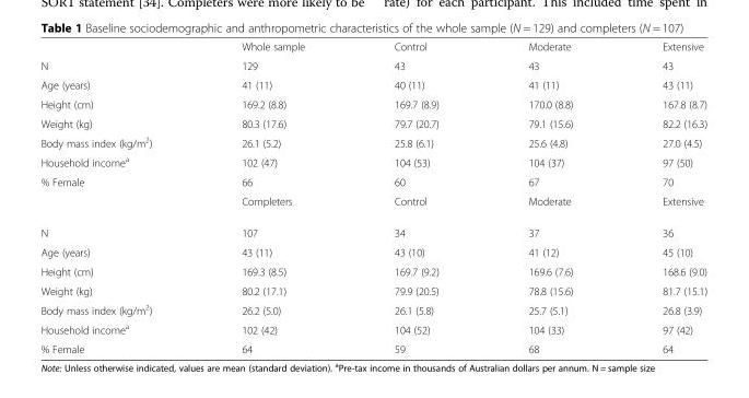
<table><thead><tr><td></td><td>Whole sample</td><td>Control</td><td>Moderate</td><td>Extensive</td></tr></thead><tbody><tr><td>N</td><td>129</td><td>43</td><td>43</td><td>43</td></tr><tr><td>Age (years)</td><td>41 (11)</td><td>40 (11)</td><td>41 (11)</td><td>43 (11)</td></tr><tr><td>Height (cm)</td><td>169.2 (8.8)</td><td>169.7 (8.9)</td><td>170.0 (8.8)</td><td>167.8 (8.7)</td></tr><tr><td>Weight (kg)</td><td>80.3 (17.6)</td><td>79.7 (20.7)</td><td>79.1 (15.6)</td><td>82.2 (16.3)</td></tr><tr><td>Body mass index (kg/m<sup>2</sup>)</td><td>26.1 (5.2)</td><td>25.8 (6.1)</td><td>25.6 (4.8)</td><td>27.0 (4.5)</td></tr><tr><td>Household income<sup>a</sup></td><td>102 (47)</td><td>104 (53)</td><td>104 (37)</td><td>97 (50)</td></tr><tr><td rowspan="2">% Female</td><td>66</td><td>60</td><td>67</td><td>70</td></tr><tr><td>Completers</td><td>Control</td><td>Moderate</td><td>Extensive</td></tr><tr><td>N</td><td>107</td><td>34</td><td>37</td><td>36</td></tr><tr><td>Age (years)</td><td>43 (11)</td><td>43 (10)</td><td>41 (12)</td><td>45 (10)</td></tr><tr><td>Height (cm)</td><td>169.3 (8.5)</td><td>169.7 (9.2)</td><td>169.6 (7.6)</td><td>168.6 (9.0)</td></tr><tr><td>Weight (kg)</td><td>80.2 (17.1)</td><td>79.9 (20.5)</td><td>78.8 (15.6)</td><td>81.7 (15.1)</td></tr><tr><td>Body mass index (kg/m<sup>2</sup>)</td><td>26.2 (5.0)</td><td>26.1 (5.8)</td><td>25.7 (5.1)</td><td>26.8 (3.9)</td></tr><tr><td>Household income<sup>a</sup></td><td>102 (42)</td><td>104 (52)</td><td>104 (33)</td><td>97 (42)</td></tr><tr><td>% Female</td><td>64</td><td>59</td><td>68</td><td>64</td></tr></tbody></table>